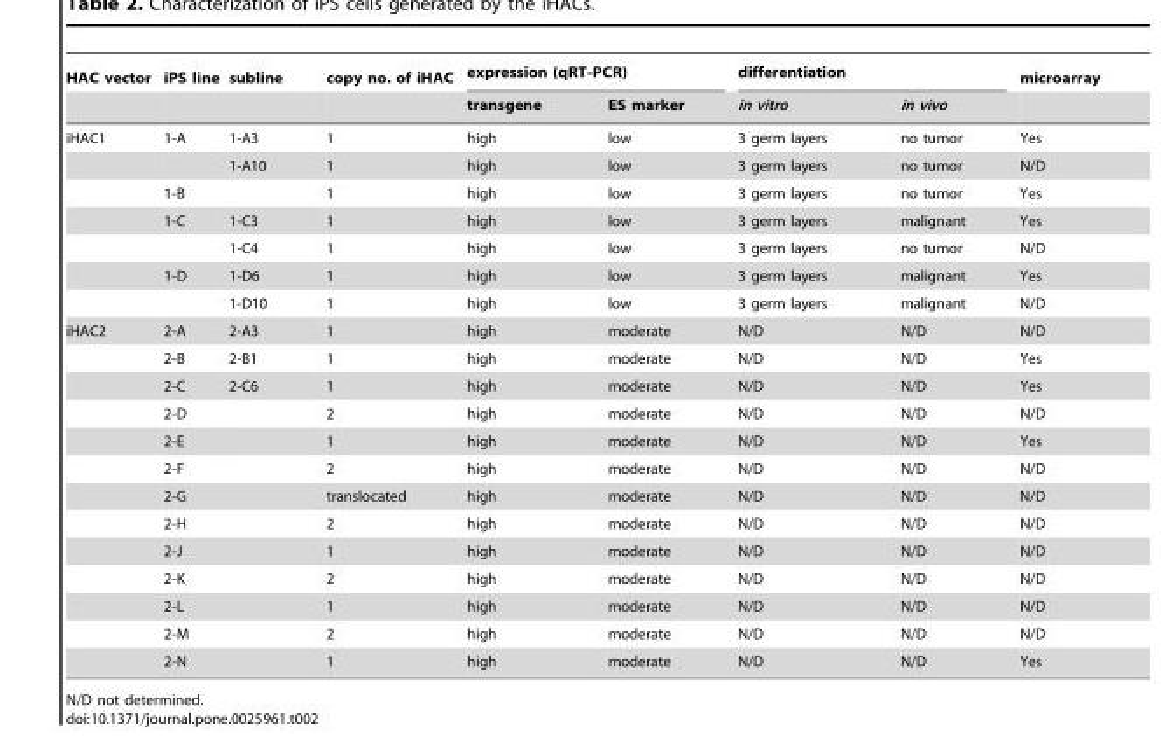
<table><thead><tr><td rowspan="2">HAC vector</td><td rowspan="2">iPS line</td><td rowspan="2">subline</td><td rowspan="2">copy no. of iHAC</td><td colspan="2">expression (qRT-PCR)</td><td colspan="2">differentiation</td><td rowspan="2">microarray</td></tr><tr><td>transgene</td><td>ES marker</td><td>in vitro</td><td>in vivo</td></tr></thead><tbody><tr><td rowspan="7">iHAC1</td><td>1-A</td><td>1-A3</td><td>1</td><td>high</td><td>low</td><td>3 germ layers</td><td>no tumor</td><td>Yes</td></tr><tr><td></td><td>1-A10</td><td>1</td><td>high</td><td>low</td><td>3 germ layers</td><td>no tumor</td><td>N/D</td></tr><tr><td>1-B</td><td></td><td>1</td><td>high</td><td>low</td><td>3 germ layers</td><td>no tumor</td><td>Yes</td></tr><tr><td>1-C</td><td>1-C3</td><td>1</td><td>high</td><td>low</td><td>3 germ layers</td><td>malignant</td><td>Yes</td></tr><tr><td></td><td>1-C4</td><td>1</td><td>high</td><td>low</td><td>3 germ layers</td><td>no tumor</td><td>N/D</td></tr><tr><td>1-D</td><td>1-D6</td><td>1</td><td>high</td><td>low</td><td>3 germ layers</td><td>malignant</td><td>Yes</td></tr><tr><td></td><td>1-D10</td><td>1</td><td>high</td><td>low</td><td>3 germ layers</td><td>malignant</td><td>N/D</td></tr><tr><td rowspan="13">iHAC2</td><td>2-A</td><td>2-A3</td><td>1</td><td>high</td><td>moderate</td><td>N/D</td><td>N/D</td><td>N/D</td></tr><tr><td>2-B</td><td>2-B1</td><td>1</td><td>high</td><td>moderate</td><td>N/D</td><td>N/D</td><td>Yes</td></tr><tr><td>2-C</td><td>2-C6</td><td>1</td><td>high</td><td>moderate</td><td>N/D</td><td>N/D</td><td>Yes</td></tr><tr><td>2-D</td><td></td><td>2</td><td>high</td><td>moderate</td><td>N/D</td><td>N/D</td><td>N/D</td></tr><tr><td>2-E</td><td></td><td>1</td><td>high</td><td>moderate</td><td>N/D</td><td>N/D</td><td>Yes</td></tr><tr><td>2-F</td><td></td><td>2</td><td>high</td><td>moderate</td><td>N/D</td><td>N/D</td><td>N/D</td></tr><tr><td>2-G</td><td></td><td>translocated</td><td>high</td><td>moderate</td><td>N/D</td><td>N/D</td><td>N/D</td></tr><tr><td>2-H</td><td></td><td>2</td><td>high</td><td>moderate</td><td>N/D</td><td>N/D</td><td>N/D</td></tr><tr><td>2-J</td><td></td><td>1</td><td>high</td><td>moderate</td><td>N/D</td><td>N/D</td><td>N/D</td></tr><tr><td>2-K</td><td></td><td>2</td><td>high</td><td>moderate</td><td>N/D</td><td>N/D</td><td>N/D</td></tr><tr><td>2-L</td><td></td><td>1</td><td>high</td><td>moderate</td><td>N/D</td><td>N/D</td><td>N/D</td></tr><tr><td>2-M</td><td></td><td>2</td><td>high</td><td>moderate</td><td>N/D</td><td>N/D</td><td>N/D</td></tr><tr><td>2-N</td><td></td><td>1</td><td>high</td><td>moderate</td><td>N/D</td><td>N/D</td><td>Yes</td></tr></tbody></table>